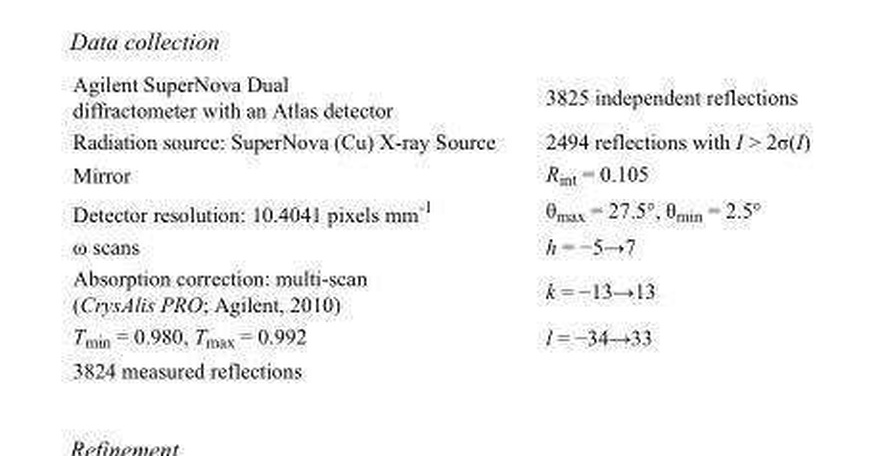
<table><tbody><tr><td>Agilent SuperNova Dual diffractometer with an Atlas detector</td><td>3825 independent reflections</td></tr><tr><td>Radiation source: SuperNova (Cu) X-ray Source</td><td>2494 reflections with I &gt; 2σ(I)</td></tr><tr><td>Mirror</td><td>R<sub>int</sub> = 0.105</td></tr><tr><td>Detector resolution: 10.4041 pixels mm<sup>-1</sup></td><td>θ<sub>max</sub> = 27.5°, θ<sub>min</sub> = 2.5°</td></tr><tr><td>ω scans</td><td>h = −5→7</td></tr><tr><td>Absorption correction: multi-scan (CrysAlis PRO; Agilent, 2010)</td><td>k = −13→13</td></tr><tr><td>T<sub>min</sub> = 0.980, T<sub>max</sub> = 0.992</td><td>l = −34→33</td></tr><tr><td>3824 measured reflections</td><td></td></tr></tbody></table>